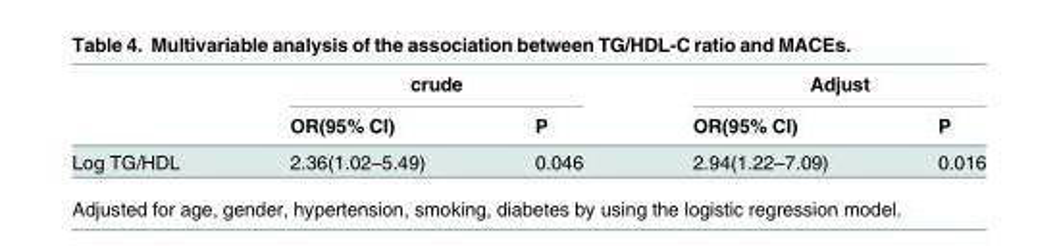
<table><thead><tr><td rowspan="2"></td><td colspan="2">crude</td><td colspan="2">Adjust</td></tr><tr><td>OR(95% CI)</td><td>P</td><td>OR(95% CI)</td><td>P</td></tr></thead><tbody><tr><td>Log TG/HDL</td><td>2.36(1.02–5.49)</td><td>0.046</td><td>2.94(1.22–7.09)</td><td>0.016</td></tr></tbody></table>